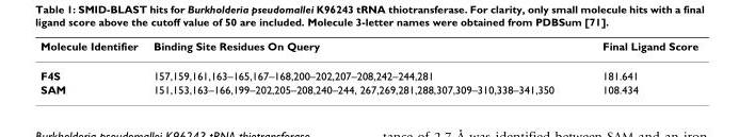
<table><thead><tr><td>Molecule Identifier</td><td>Binding Site Residues On Query</td><td>Final Ligand Score</td></tr></thead><tbody><tr><td>F4S</td><td>157,159,161,163–165,167–168,200–202,207–208,242–244,281</td><td>181.641</td></tr><tr><td>SAM</td><td>151,153,163–166,199–202,205–208,240–244, 267,269,281,288,307,309–310,338–341,350</td><td>108.434</td></tr></tbody></table>